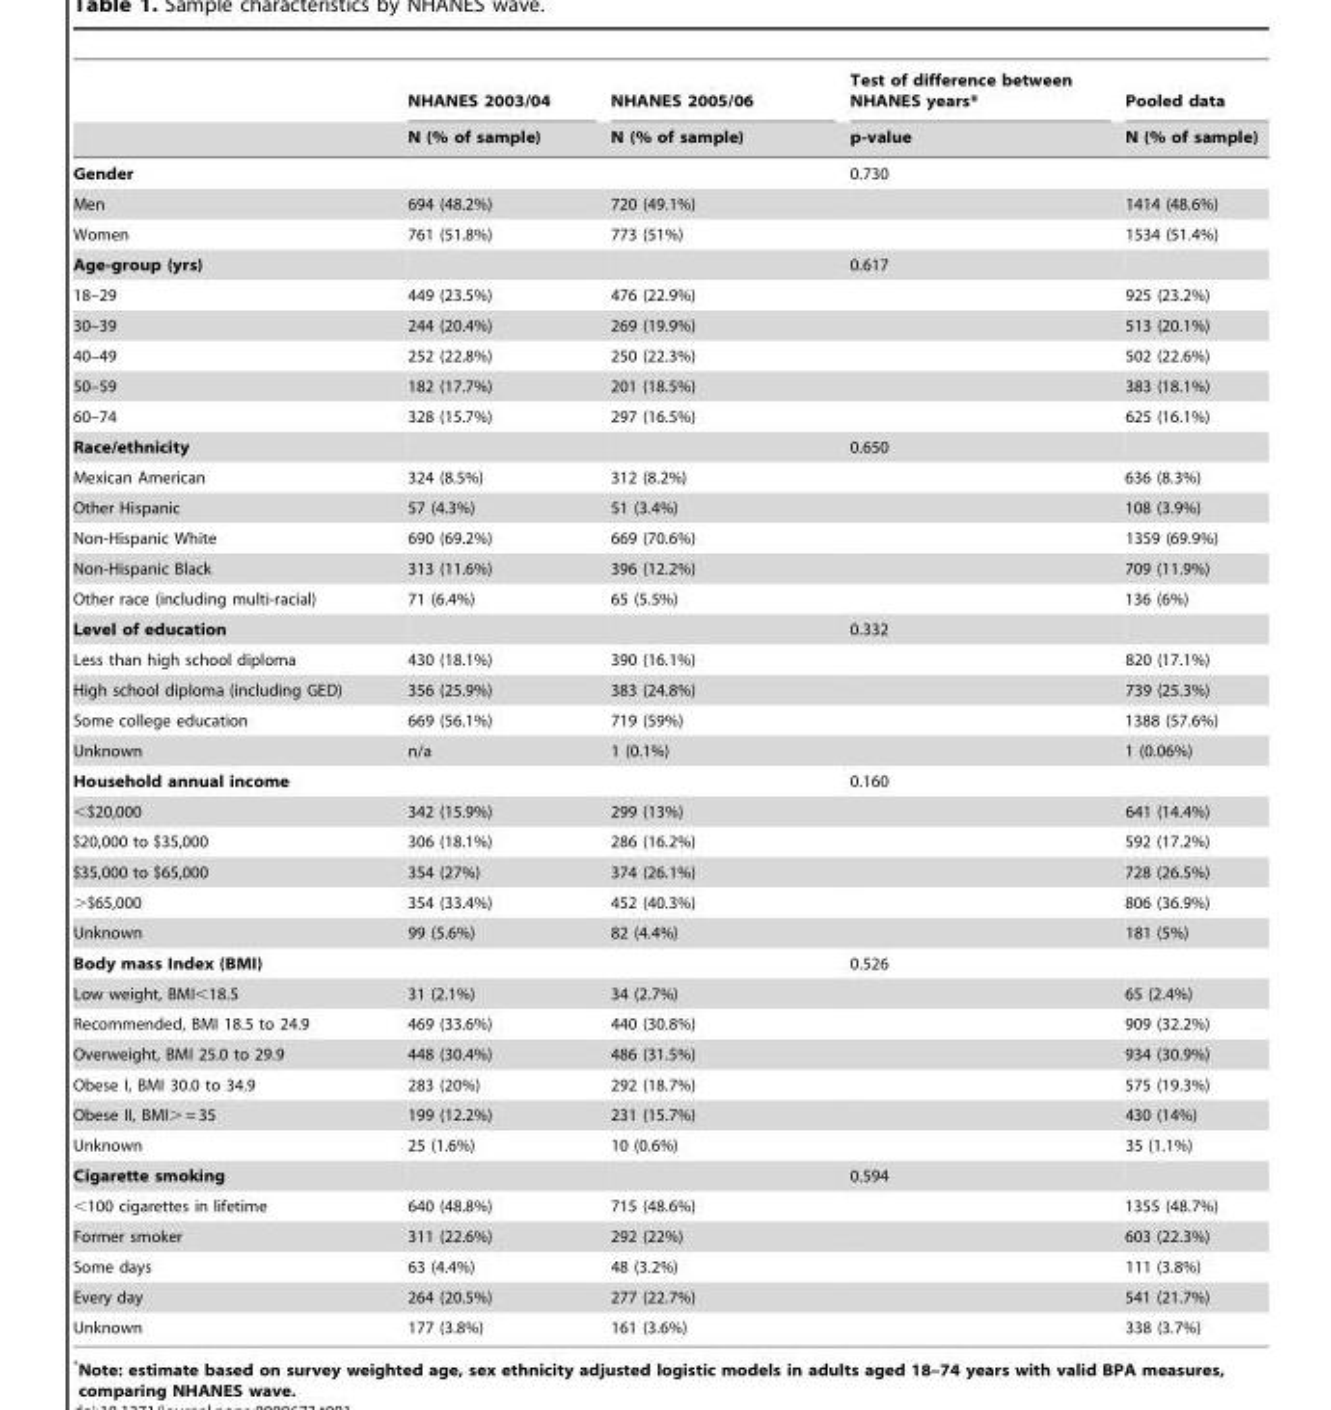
<table><thead><tr><td rowspan="2"></td><td rowspan="2">NHANES 2003/04 N (% of sample)</td><td rowspan="2">NHANES 2005/06 N (% of sample)</td><td rowspan="2">Test of difference between NHANES years* p-value</td><td rowspan="2">Pooled data N (% of sample)</td></tr><tr></tr></thead><tbody><tr><td>Gender</td><td></td><td></td><td>0.730</td><td></td></tr><tr><td>Men</td><td>694 (48.2%)</td><td>720 (49.1%)</td><td></td><td>1414 (48.6%)</td></tr><tr><td>Women</td><td>761 (51.8%)</td><td>773 (51%)</td><td></td><td>1534 (51.4%)</td></tr><tr><td>Age-group (yrs)</td><td></td><td></td><td>0.617</td><td></td></tr><tr><td>18–29</td><td>449 (23.5%)</td><td>476 (22.9%)</td><td></td><td>925 (23.2%)</td></tr><tr><td>30–39</td><td>244 (20.4%)</td><td>269 (19.9%)</td><td></td><td>513 (20.1%)</td></tr><tr><td>40–49</td><td>252 (22.8%)</td><td>250 (22.3%)</td><td></td><td>502 (22.6%)</td></tr><tr><td>50–59</td><td>182 (17.7%)</td><td>201 (18.5%)</td><td></td><td>383 (18.1%)</td></tr><tr><td>60–74</td><td>328 (15.7%)</td><td>297 (16.5%)</td><td></td><td>625 (16.1%)</td></tr><tr><td>Race/ethnicity</td><td></td><td></td><td>0.650</td><td></td></tr><tr><td>Mexican American</td><td>324 (8.5%)</td><td>312 (8.2%)</td><td></td><td>636 (8.3%)</td></tr><tr><td>Other Hispanic</td><td>57 (4.3%)</td><td>51 (3.4%)</td><td></td><td>108 (3.9%)</td></tr><tr><td>Non-Hispanic White</td><td>690 (69.2%)</td><td>669 (70.6%)</td><td></td><td>1359 (69.9%)</td></tr><tr><td>Non-Hispanic Black</td><td>313 (11.6%)</td><td>396 (12.2%)</td><td></td><td>709 (11.9%)</td></tr><tr><td>Other race (including multi-racial)</td><td>71 (6.4%)</td><td>65 (5.5%)</td><td></td><td>136 (6%)</td></tr><tr><td>Level of education</td><td></td><td></td><td>0.332</td><td></td></tr><tr><td>Less than high school diploma</td><td>430 (18.1%)</td><td>390 (16.1%)</td><td></td><td>820 (17.1%)</td></tr><tr><td>High school diploma (including GED)</td><td>356 (25.9%)</td><td>383 (24.8%)</td><td></td><td>739 (25.3%)</td></tr><tr><td>Some college education</td><td>669 (56.1%)</td><td>719 (59%)</td><td></td><td>1388 (57.6%)</td></tr><tr><td>Unknown</td><td>n/a</td><td>1 (0.1%)</td><td></td><td>1 (0.06%)</td></tr><tr><td>Household annual income</td><td></td><td></td><td>0.160</td><td></td></tr><tr><td>&lt;$20,000</td><td>342 (15.9%)</td><td>299 (13%)</td><td></td><td>641 (14.4%)</td></tr><tr><td>$20,000 to $35,000</td><td>306 (18.1%)</td><td>286 (16.2%)</td><td></td><td>592 (17.2%)</td></tr><tr><td>$35,000 to $65,000</td><td>354 (27%)</td><td>374 (26.1%)</td><td></td><td>728 (26.5%)</td></tr><tr><td>&gt;$65,000</td><td>354 (33.4%)</td><td>452 (40.3%)</td><td></td><td>806 (36.9%)</td></tr><tr><td>Unknown</td><td>99 (5.6%)</td><td>82 (4.4%)</td><td></td><td>181 (5%)</td></tr><tr><td>Body mass Index (BMI)</td><td></td><td></td><td>0.526</td><td></td></tr><tr><td>Low weight, BMI&lt;18.5</td><td>31 (2.1%)</td><td>34 (2.7%)</td><td></td><td>65 (2.4%)</td></tr><tr><td>Recommended, BMI 18.5 to 24.9</td><td>469 (33.6%)</td><td>440 (30.8%)</td><td></td><td>909 (32.2%)</td></tr><tr><td>Overweight, BMI 25.0 to 29.9</td><td>448 (30.4%)</td><td>486 (31.5%)</td><td></td><td>934 (30.9%)</td></tr><tr><td>Obese I, BMI 30.0 to 34.9</td><td>283 (20%)</td><td>292 (18.7%)</td><td></td><td>575 (19.3%)</td></tr><tr><td>Obese II, BMI&gt; = 35</td><td>199 (12.2%)</td><td>231 (15.7%)</td><td></td><td>430 (14%)</td></tr><tr><td>Unknown</td><td>25 (1.6%)</td><td>10 (0.6%)</td><td></td><td>35 (1.1%)</td></tr><tr><td>Cigarette smoking</td><td></td><td></td><td>0.594</td><td></td></tr><tr><td>&lt;100 cigarettes in lifetime</td><td>640 (48.8%)</td><td>715 (48.6%)</td><td></td><td>1355 (48.7%)</td></tr><tr><td>Former smoker</td><td>311 (22.6%)</td><td>292 (22%)</td><td></td><td>603 (22.3%)</td></tr><tr><td>Some days</td><td>63 (4.4%)</td><td>48 (3.2%)</td><td></td><td>111 (3.8%)</td></tr><tr><td>Every day</td><td>264 (20.5%)</td><td>277 (22.7%)</td><td></td><td>541 (21.7%)</td></tr><tr><td>Unknown</td><td>177 (3.8%)</td><td>161 (3.6%)</td><td></td><td>338 (3.7%)</td></tr></tbody></table>